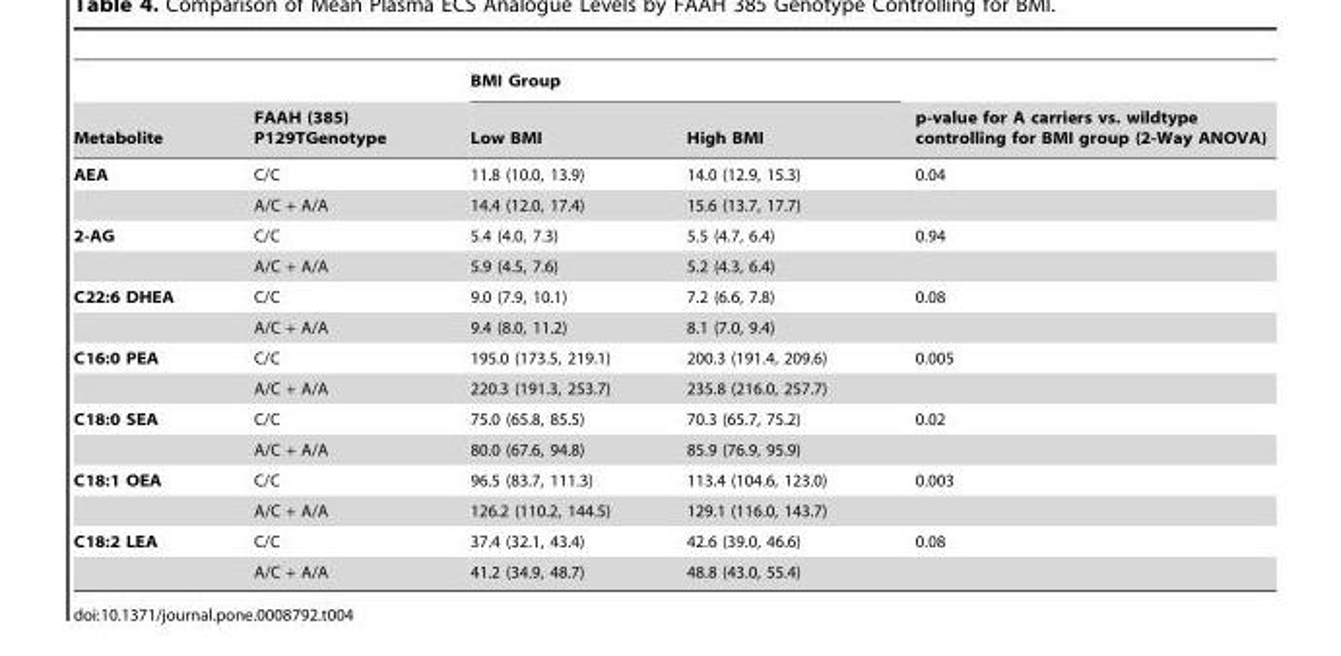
<table><thead><tr><td rowspan="2">Metabolite</td><td rowspan="2">FAAH (385) P129TGenotype</td><td colspan="2">BMI Group</td><td rowspan="2">p-value for A carriers vs. wildtype controlling for BMI group (2-Way ANOVA)</td></tr><tr><td>Low BMI</td><td>High BMI</td></tr></thead><tbody><tr><td rowspan="2">AEA</td><td>C/C</td><td>11.8 (10.0, 13.9)</td><td>14.0 (12.9, 15.3)</td><td>0.04</td></tr><tr><td>A/C + A/A</td><td>14.4 (12.0, 17.4)</td><td>15.6 (13.7, 17.7)</td><td></td></tr><tr><td rowspan="2">2-AG</td><td>C/C</td><td>5.4 (4.0, 7.3)</td><td>5.5 (4.7, 6.4)</td><td>0.94</td></tr><tr><td>A/C + A/A</td><td>5.9 (4.5, 7.6)</td><td>5.2 (4.3, 6.4)</td><td></td></tr><tr><td rowspan="2">C22:6 DHEA</td><td>C/C</td><td>9.0 (7.9, 10.1)</td><td>7.2 (6.6, 7.8)</td><td>0.08</td></tr><tr><td>A/C + A/A</td><td>9.4 (8.0, 11.2)</td><td>8.1 (7.0, 9.4)</td><td></td></tr><tr><td rowspan="2">C16:0 PEA</td><td>C/C</td><td>195.0 (173.5, 219.1)</td><td>200.3 (191.4, 209.6)</td><td>0.005</td></tr><tr><td>A/C + A/A</td><td>220.3 (191.3, 253.7)</td><td>235.8 (216.0, 257.7)</td><td></td></tr><tr><td rowspan="2">C18:0 SEA</td><td>C/C</td><td>75.0 (65.8, 85.5)</td><td>70.3 (65.7, 75.2)</td><td>0.02</td></tr><tr><td>A/C + A/A</td><td>80.0 (67.6, 94.8)</td><td>85.9 (76.9, 95.9)</td><td></td></tr><tr><td rowspan="2">C18:1 OEA</td><td>C/C</td><td>96.5 (83.7, 111.3)</td><td>113.4 (104.6, 123.0)</td><td>0.003</td></tr><tr><td>A/C + A/A</td><td>126.2 (110.2, 144.5)</td><td>129.1 (116.0, 143.7)</td><td></td></tr><tr><td rowspan="2">C18:2 LEA</td><td>C/C</td><td>37.4 (32.1, 43.4)</td><td>42.6 (39.0, 46.6)</td><td>0.08</td></tr><tr><td>A/C + A/A</td><td>41.2 (34.9, 48.7)</td><td>48.8 (43.0, 55.4)</td><td></td></tr></tbody></table>